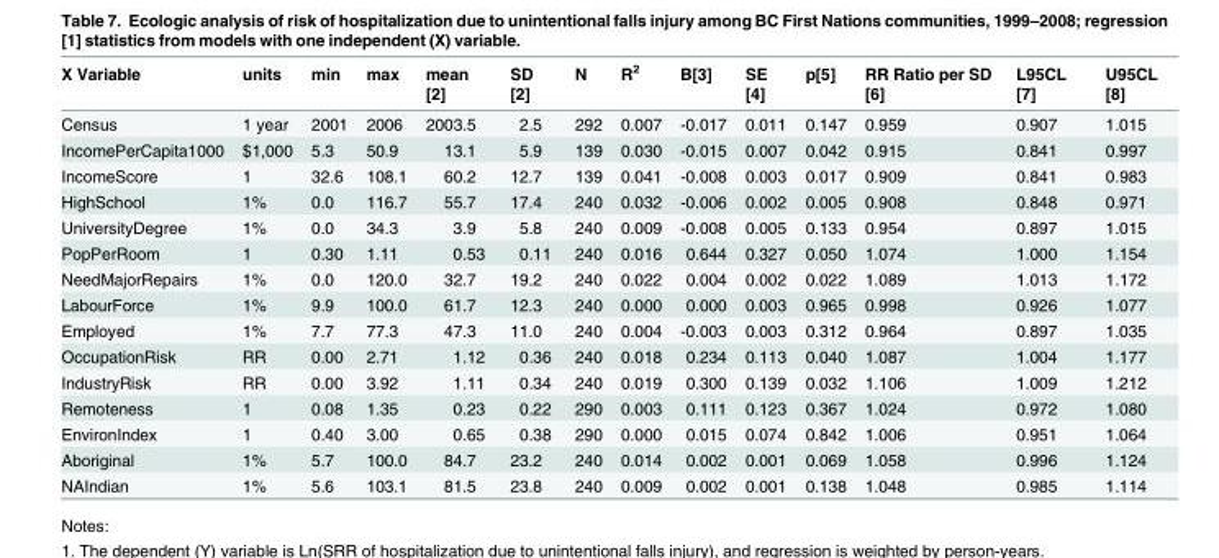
<table><thead><tr><td>X Variable</td><td>units</td><td>min</td><td>max</td><td>mean [2]</td><td>SD [2]</td><td>N</td><td>R<sup>2</sup></td><td>B[3]</td><td>SE [4]</td><td>p[5]</td><td>RR Ratio per SD [6]</td><td>L95CL [7]</td><td>U95CL [8]</td></tr></thead><tbody><tr><td>Census</td><td>1 year</td><td>2001</td><td>2006</td><td>2003.5</td><td>2.5</td><td>292</td><td>0.007</td><td>-0.017</td><td>0.011</td><td>0.147</td><td>0.959</td><td>0.907</td><td>1.015</td></tr><tr><td>IncomePerCapita1000</td><td>$1,000</td><td>5.3</td><td>50.9</td><td>13.1</td><td>5.9</td><td>139</td><td>0.030</td><td>-0.015</td><td>0.007</td><td>0.042</td><td>0.915</td><td>0.841</td><td>0.997</td></tr><tr><td>IncomeScore</td><td>1</td><td>32.6</td><td>108.1</td><td>60.2</td><td>12.7</td><td>139</td><td>0.041</td><td>-0.008</td><td>0.003</td><td>0.017</td><td>0.909</td><td>0.841</td><td>0.983</td></tr><tr><td>HighSchool</td><td>1%</td><td>0.0</td><td>116.7</td><td>55.7</td><td>17.4</td><td>240</td><td>0.032</td><td>-0.006</td><td>0.002</td><td>0.005</td><td>0.908</td><td>0.848</td><td>0.971</td></tr><tr><td>UniversityDegree</td><td>1%</td><td>0.0</td><td>34.3</td><td>3.9</td><td>5.8</td><td>240</td><td>0.009</td><td>-0.008</td><td>0.005</td><td>0.133</td><td>0.954</td><td>0.897</td><td>1.015</td></tr><tr><td>PopPerRoom</td><td>1</td><td>0.30</td><td>1.11</td><td>0.53</td><td>0.11</td><td>240</td><td>0.016</td><td>0.644</td><td>0.327</td><td>0.050</td><td>1.074</td><td>1.000</td><td>1.154</td></tr><tr><td>NeedMajorRepairs</td><td>1%</td><td>0.0</td><td>120.0</td><td>32.7</td><td>19.2</td><td>240</td><td>0.022</td><td>0.004</td><td>0.002</td><td>0.022</td><td>1.089</td><td>1.013</td><td>1.172</td></tr><tr><td>LabourForce</td><td>1%</td><td>9.9</td><td>100.0</td><td>61.7</td><td>12.3</td><td>240</td><td>0.000</td><td>0.000</td><td>0.003</td><td>0.965</td><td>0.998</td><td>0.926</td><td>1.077</td></tr><tr><td>Employed</td><td>1%</td><td>7.7</td><td>77.3</td><td>47.3</td><td>11.0</td><td>240</td><td>0.004</td><td>-0.003</td><td>0.003</td><td>0.312</td><td>0.964</td><td>0.897</td><td>1.035</td></tr><tr><td>OccupationRisk</td><td>RR</td><td>0.00</td><td>2.71</td><td>1.12</td><td>0.36</td><td>240</td><td>0.018</td><td>0.234</td><td>0.113</td><td>0.040</td><td>1.087</td><td>1.004</td><td>1.177</td></tr><tr><td>IndustryRisk</td><td>RR</td><td>0.00</td><td>3.92</td><td>1.11</td><td>0.34</td><td>240</td><td>0.019</td><td>0.300</td><td>0.139</td><td>0.032</td><td>1.106</td><td>1.009</td><td>1.212</td></tr><tr><td>Remoteness</td><td>1</td><td>0.08</td><td>1.35</td><td>0.23</td><td>0.22</td><td>290</td><td>0.003</td><td>0.111</td><td>0.123</td><td>0.367</td><td>1.024</td><td>0.972</td><td>1.080</td></tr><tr><td>EnvironIndex</td><td>1</td><td>0.40</td><td>3.00</td><td>0.65</td><td>0.38</td><td>290</td><td>0.000</td><td>0.015</td><td>0.074</td><td>0.842</td><td>1.006</td><td>0.951</td><td>1.064</td></tr><tr><td>Aboriginal</td><td>1%</td><td>5.7</td><td>100.0</td><td>84.7</td><td>23.2</td><td>240</td><td>0.014</td><td>0.002</td><td>0.001</td><td>0.069</td><td>1.058</td><td>0.996</td><td>1.124</td></tr><tr><td>NAIndian</td><td>1%</td><td>5.6</td><td>103.1</td><td>81.5</td><td>23.8</td><td>240</td><td>0.009</td><td>0.002</td><td>0.001</td><td>0.138</td><td>1.048</td><td>0.985</td><td>1.114</td></tr></tbody></table>